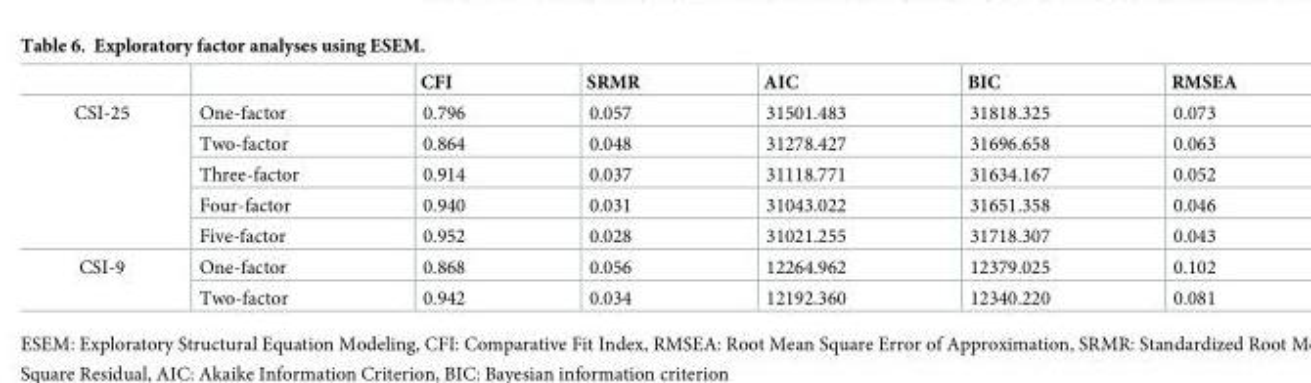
<table><thead><tr><td></td><td></td><td>CFI</td><td>SRMR</td><td>AIC</td><td>BIC</td><td>RMSEA</td></tr></thead><tbody><tr><td rowspan="5">CSI-25</td><td>One-factor</td><td>0.796</td><td>0.057</td><td>31501.483</td><td>31818.325</td><td>0.073</td></tr><tr><td>Two-factor</td><td>0.864</td><td>0.048</td><td>31278.427</td><td>31696.658</td><td>0.063</td></tr><tr><td>Three-factor</td><td>0.914</td><td>0.037</td><td>31118.771</td><td>31634.167</td><td>0.052</td></tr><tr><td>Four-factor</td><td>0.940</td><td>0.031</td><td>31043.022</td><td>31651.358</td><td>0.046</td></tr><tr><td>Five-factor</td><td>0.952</td><td>0.028</td><td>31021.255</td><td>31718.307</td><td>0.043</td></tr><tr><td rowspan="2">CSI-9</td><td>One-factor</td><td>0.868</td><td>0.056</td><td>12264.962</td><td>12379.025</td><td>0.102</td></tr><tr><td>Two-factor</td><td>0.942</td><td>0.034</td><td>12192.360</td><td>12340.220</td><td>0.081</td></tr></tbody></table>